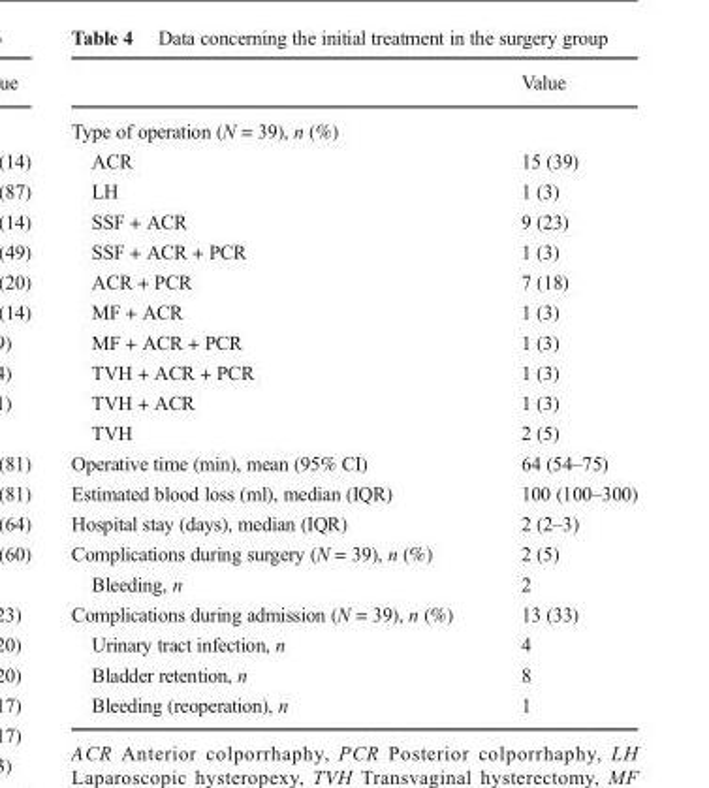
<table><thead><tr><td></td><td>Value</td></tr></thead><tbody><tr><td colspan="2">Type of operation (N = 39), n (%)</td></tr><tr><td>ACR</td><td>15 (39)</td></tr><tr><td>LH</td><td>1 (3)</td></tr><tr><td>SSF + ACR</td><td>9 (23)</td></tr><tr><td>SSF + ACR + PCR</td><td>1 (3)</td></tr><tr><td>ACR + PCR</td><td>7 (18)</td></tr><tr><td>MF + ACR</td><td>1 (3)</td></tr><tr><td>MF + ACR + PCR</td><td>1 (3)</td></tr><tr><td>TVH + ACR + PCR</td><td>1 (3)</td></tr><tr><td>TVH + ACR</td><td>1 (3)</td></tr><tr><td>TVH</td><td>2 (5)</td></tr><tr><td>Operative time (min), mean (95% CI)</td><td>64 (54–75)</td></tr><tr><td>Estimated blood loss (ml), median (IQR)</td><td>100 (100–300)</td></tr><tr><td>Hospital stay (days), median (IQR)</td><td>2 (2–3)</td></tr><tr><td>Complications during surgery (N = 39), n (%)</td><td>2 (5)</td></tr><tr><td>Bleeding, n</td><td>2</td></tr><tr><td>Complications during admission (N = 39), n (%)</td><td>13 (33)</td></tr><tr><td>Urinary tract infection, n</td><td>4</td></tr><tr><td>Bladder retention, n</td><td>8</td></tr><tr><td>Bleeding (reoperation), n</td><td>1</td></tr></tbody></table>